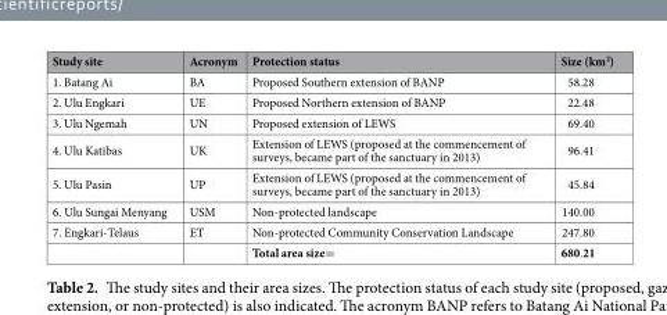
<table><thead><tr><td>Study site</td><td>Acronym</td><td>Protection status</td><td>Size (km<sup>2</sup>)</td></tr></thead><tbody><tr><td>1. Batang Ai</td><td>BA</td><td>Proposed Southern extension of BANP</td><td>58.28</td></tr><tr><td>2. Ulu Engkari</td><td>UE</td><td>Proposed Northern extension of BANP</td><td>22.48</td></tr><tr><td>3. Ulu Ngemah</td><td>UN</td><td>Proposed extension of LEWS</td><td>69.40</td></tr><tr><td>4. Ulu Katibas</td><td>UK</td><td>Extension of LEWS (proposed at the commencement of surveys, became part of the sanctuary in 2013)</td><td>96.41</td></tr><tr><td>5. Ulu Pasin</td><td>UP</td><td>Extension of LEWS (proposed at the commencement of surveys, became part of the sanctuary in 2013)</td><td>45.84</td></tr><tr><td>6. Ulu Sungai Menyang</td><td>USM</td><td>Non-protected landscape</td><td>140.00</td></tr><tr><td rowspan="2">7. Engkari-Telaus</td><td>ET</td><td>Non-protected Community Conservation Landscape</td><td>247.80</td></tr><tr><td></td><td>Total area size=</td><td>680.21</td></tr></tbody></table>